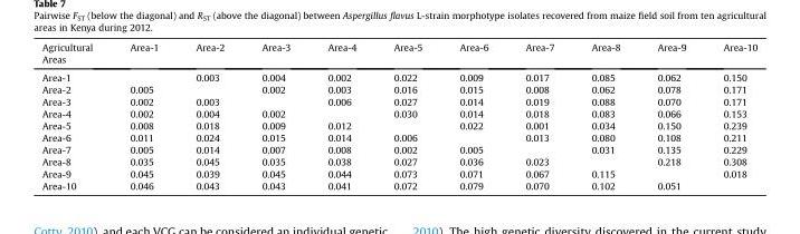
<table><thead><tr><td>Agricultural Areas</td><td>Area-1</td><td>Area-2</td><td>Area-3</td><td>Area-4</td><td>Area-5</td><td>Area-6</td><td>Area-7</td><td>Area-8</td><td>Area-9</td><td>Area-10</td></tr></thead><tbody><tr><td>Area-1</td><td></td><td>0.003</td><td>0.004</td><td>0.002</td><td>0.022</td><td>0.009</td><td>0.017</td><td>0.085</td><td>0.062</td><td>0.150</td></tr><tr><td>Area-2</td><td>0.005</td><td></td><td>0.002</td><td>0.003</td><td>0.016</td><td>0.015</td><td>0.008</td><td>0.062</td><td>0.078</td><td>0.171</td></tr><tr><td>Area-3</td><td>0.002</td><td>0.003</td><td></td><td>0.006</td><td>0.027</td><td>0.014</td><td>0.019</td><td>0.088</td><td>0.070</td><td>0.171</td></tr><tr><td>Area-4</td><td>0.002</td><td>0.004</td><td>0.002</td><td></td><td>0.030</td><td>0.014</td><td>0.018</td><td>0.083</td><td>0.066</td><td>0.153</td></tr><tr><td>Area-5</td><td>0.008</td><td>0.018</td><td>0.009</td><td>0.012</td><td></td><td>0.022</td><td>0.001</td><td>0.034</td><td>0.150</td><td>0.239</td></tr><tr><td>Area-6</td><td>0.011</td><td>0.024</td><td>0.015</td><td>0.014</td><td>0.006</td><td></td><td>0.013</td><td>0.080</td><td>0.108</td><td>0.211</td></tr><tr><td>Area-7</td><td>0.005</td><td>0.014</td><td>0.007</td><td>0.008</td><td>0.002</td><td>0.005</td><td></td><td>0.031</td><td>0.135</td><td>0.229</td></tr><tr><td>Area-8</td><td>0.035</td><td>0.045</td><td>0.035</td><td>0.038</td><td>0.027</td><td>0.036</td><td>0.023</td><td></td><td>0.218</td><td>0.308</td></tr><tr><td>Area-9</td><td>0.045</td><td>0.039</td><td>0.045</td><td>0.044</td><td>0.073</td><td>0.071</td><td>0.067</td><td>0.115</td><td></td><td>0.018</td></tr><tr><td>Area-10</td><td>0.046</td><td>0.043</td><td>0.043</td><td>0.041</td><td>0.072</td><td>0.079</td><td>0.070</td><td>0.102</td><td>0.051</td><td></td></tr></tbody></table>